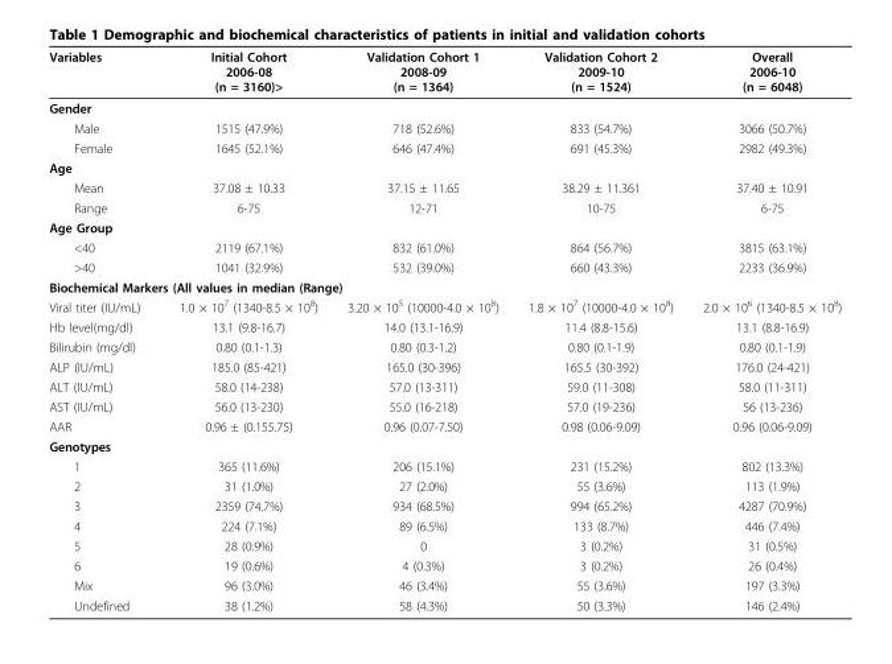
<table><thead><tr><td>Variables</td><td>Initial Cohort 2006-08 (n = 3160)&gt;</td><td>Validation Cohort 1 2008-09 (n = 1364)</td><td>Validation Cohort 2 2009-10 (n = 1524)</td><td>Overall 2006-10 (n = 6048)</td></tr></thead><tbody><tr><td colspan="5">Gender</td></tr><tr><td>Male</td><td>1515 (47.9%)</td><td>718 (52.6%)</td><td>833 (54.7%)</td><td>3066 (50.7%)</td></tr><tr><td>Female</td><td>1645 (52.1%)</td><td>646 (47.4%)</td><td>691 (45.3%)</td><td>2982 (49.3%)</td></tr><tr><td colspan="5">Age</td></tr><tr><td>Mean</td><td>37.08 ± 10.33</td><td>37.15 ± 11.65</td><td>38.29 ± 11.361</td><td>37.40 ± 10.91</td></tr><tr><td>Range</td><td>6-75</td><td>12-71</td><td>10-75</td><td>6-75</td></tr><tr><td colspan="5">Age Group</td></tr><tr><td>&lt;40</td><td>2119 (67.1%)</td><td>832 (61.0%)</td><td>864 (56.7%)</td><td>3815 (63.1%)</td></tr><tr><td>&gt;40</td><td>1041 (32.9%)</td><td>532 (39.0%)</td><td>660 (43.3%)</td><td>2233 (36.9%)</td></tr><tr><td colspan="5">Biochemical Markers (All values in median (Range)</td></tr><tr><td>Viral titer (IU/mL)</td><td>1.0 × 10<sup>7</sup> (1340-8.5 × 10<sup>8</sup>)</td><td>3.20 × 10<sup>5</sup> (10000-4.0 × 10<sup>8</sup>)</td><td>1.8 × 10<sup>7</sup> (10000-4.0 × 10<sup>8</sup>)</td><td>2.0 × 10<sup>6</sup> (1340-8.5 × 10<sup>8</sup>)</td></tr><tr><td>Hb level(mg/dl)</td><td>13.1 (9.8-16.7)</td><td>14.0 (13.1-16.9)</td><td>11.4 (8.8-15.6)</td><td>13.1 (8.8-16.9)</td></tr><tr><td>Bilirubin (mg/dl)</td><td>0.80 (0.1-1.3)</td><td>0.80 (0.3-1.2)</td><td>0.80 (0.1-1.9)</td><td>0.80 (0.1-1.9)</td></tr><tr><td>ALP (IU/mL)</td><td>185.0 (85-421)</td><td>165.0 (30-396)</td><td>165.5 (30-392)</td><td>176.0 (24-421)</td></tr><tr><td>ALT (IU/mL)</td><td>58.0 (14-238)</td><td>57.0 (13-311)</td><td>59.0 (11-308)</td><td>58.0 (11-311)</td></tr><tr><td>AST (IU/mL)</td><td>56.0 (13-230)</td><td>55.0 (16-218)</td><td>57.0 (19-236)</td><td>56 (13-236)</td></tr><tr><td>AAR</td><td>0.96 ± (0.155.75)</td><td>0.96 (0.07-7.50)</td><td>0.98 (0.06-9.09)</td><td>0.96 (0.06-9.09)</td></tr><tr><td colspan="5">Genotypes</td></tr><tr><td>1</td><td>365 (11.6%)</td><td>206 (15.1%)</td><td>231 (15.2%)</td><td>802 (13.3%)</td></tr><tr><td>2</td><td>31 (1.0%)</td><td>27 (2.0%)</td><td>55 (3.6%)</td><td>113 (1.9%)</td></tr><tr><td>3</td><td>2359 (74.7%)</td><td>934 (68.5%)</td><td>994 (65.2%)</td><td>4287 (70.9%)</td></tr><tr><td>4</td><td>224 (7.1%)</td><td>89 (6.5%)</td><td>133 (8.7%)</td><td>446 (7.4%)</td></tr><tr><td>5</td><td>28 (0.9%)</td><td>0</td><td>3 (0.2%)</td><td>31 (0.5%)</td></tr><tr><td>6</td><td>19 (0.6%)</td><td>4 (0.3%)</td><td>3 (0.2%)</td><td>26 (0.4%)</td></tr><tr><td>Mix</td><td>96 (3.0%)</td><td>46 (3.4%)</td><td>55 (3.6%)</td><td>197 (3.3%)</td></tr><tr><td>Undefined</td><td>38 (1.2%)</td><td>58 (4.3%)</td><td>50 (3.3%)</td><td>146 (2.4%)</td></tr></tbody></table>